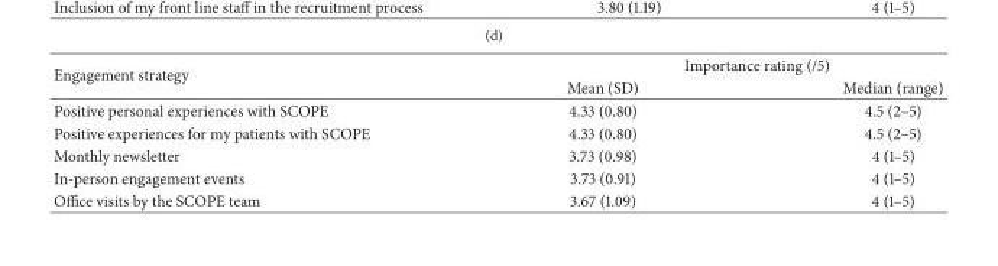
<table><thead><tr><td rowspan="2">Engagement strategy</td><td colspan="2">Importance rating (/5)</td></tr><tr><td>Mean (SD)</td><td>Median (range)</td></tr></thead><tbody><tr><td>Positive personal experiences with SCOPE</td><td>4.33 (0.80)</td><td>4.5 (2–5)</td></tr><tr><td>Positive experiences for my patients with SCOPE</td><td>4.33 (0.80)</td><td>4.5 (2–5)</td></tr><tr><td>Monthly newsletter</td><td>3.73 (0.98)</td><td>4 (1–5)</td></tr><tr><td>In-person engagement events</td><td>3.73 (0.91)</td><td>4 (1–5)</td></tr><tr><td>Office visits by the SCOPE team</td><td>3.67 (1.09)</td><td>4 (1–5)</td></tr></tbody></table>